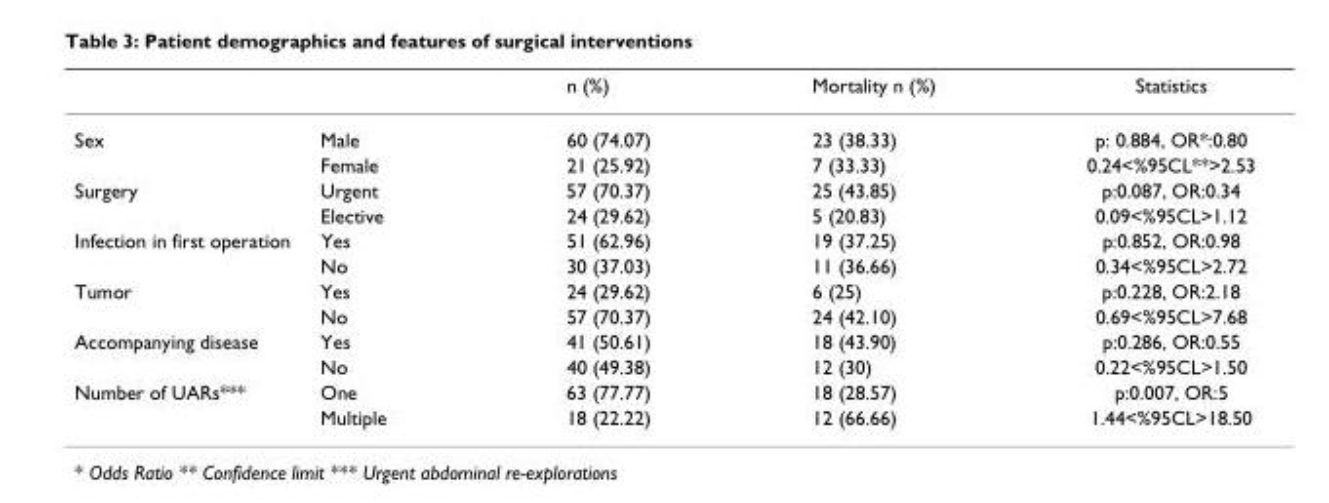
<table><thead><tr><td></td><td></td><td>n (%)</td><td>Mortality n (%)</td><td>Statistics</td></tr></thead><tbody><tr><td rowspan="2">Sex</td><td>Male</td><td>60 (74.07)</td><td>23 (38.33)</td><td>p: 0.884, OR*:0.80</td></tr><tr><td>Female</td><td>21 (25.92)</td><td>7 (33.33)</td><td>0.24&lt;%95CL**&gt;2.53</td></tr><tr><td rowspan="2">Surgery</td><td>Urgent</td><td>57 (70.37)</td><td>25 (43.85)</td><td>p:0.087, OR:0.34</td></tr><tr><td>Elective</td><td>24 (29.62)</td><td>5 (20.83)</td><td>0.09&lt;%95CL&gt;1.12</td></tr><tr><td rowspan="2">Infection in first operation</td><td>Yes</td><td>51 (62.96)</td><td>19 (37.25)</td><td>p:0.852, OR:0.98</td></tr><tr><td>No</td><td>30 (37.03)</td><td>11 (36.66)</td><td>0.34&lt;%95CL&gt;2.72</td></tr><tr><td rowspan="2">Tumor</td><td>Yes</td><td>24 (29.62)</td><td>6 (25)</td><td>p:0.228, OR:2.18</td></tr><tr><td>No</td><td>57 (70.37)</td><td>24 (42.10)</td><td>0.69&lt;%95CL&gt;7.68</td></tr><tr><td rowspan="2">Accompanying disease</td><td>Yes</td><td>41 (50.61)</td><td>18 (43.90)</td><td>p:0.286, OR:0.55</td></tr><tr><td>No</td><td>40 (49.38)</td><td>12 (30)</td><td>0.22&lt;%95CL&gt;1.50</td></tr><tr><td rowspan="2">Number of UARs***</td><td>One</td><td>63 (77.77)</td><td>18 (28.57)</td><td>p:0.007, OR:5</td></tr><tr><td>Multiple</td><td>18 (22.22)</td><td>12 (66.66)</td><td>1.44&lt;%95CL&gt;18.50</td></tr></tbody></table>